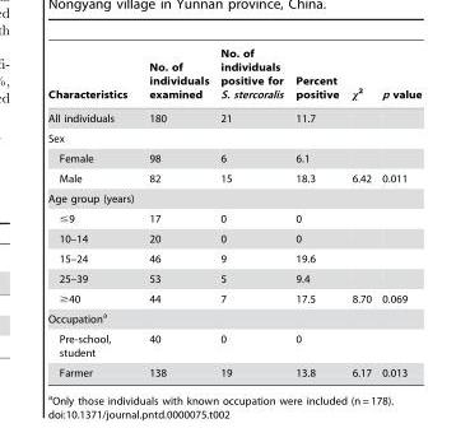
<table><thead><tr><td>Characteristics</td><td>No. of individuals examined</td><td>No. of individuals positive for S. stercoralis</td><td>Percent positive</td><td>χ<sup>2</sup></td><td>p value</td></tr></thead><tbody><tr><td>All individuals</td><td>180</td><td>21</td><td>11.7</td><td></td><td></td></tr><tr><td colspan="6">Sex</td></tr><tr><td>Female</td><td>98</td><td>6</td><td>6.1</td><td></td><td></td></tr><tr><td>Male</td><td>82</td><td>15</td><td>18.3</td><td>6.42</td><td>0.011</td></tr><tr><td colspan="6">Age group (years)</td></tr><tr><td>≤9</td><td>17</td><td>0</td><td>0</td><td></td><td></td></tr><tr><td>10–14</td><td>20</td><td>0</td><td>0</td><td></td><td></td></tr><tr><td>15–24</td><td>46</td><td>9</td><td>19.6</td><td></td><td></td></tr><tr><td>25–39</td><td>53</td><td>5</td><td>9.4</td><td></td><td></td></tr><tr><td>≥40</td><td>44</td><td>7</td><td>17.5</td><td>8.70</td><td>0.069</td></tr><tr><td colspan="6">Occupation<sup>a</sup></td></tr><tr><td>Pre-school, student</td><td>40</td><td>0</td><td>0</td><td></td><td></td></tr><tr><td>Farmer</td><td>138</td><td>19</td><td>13.8</td><td>6.17</td><td>0.013</td></tr></tbody></table>